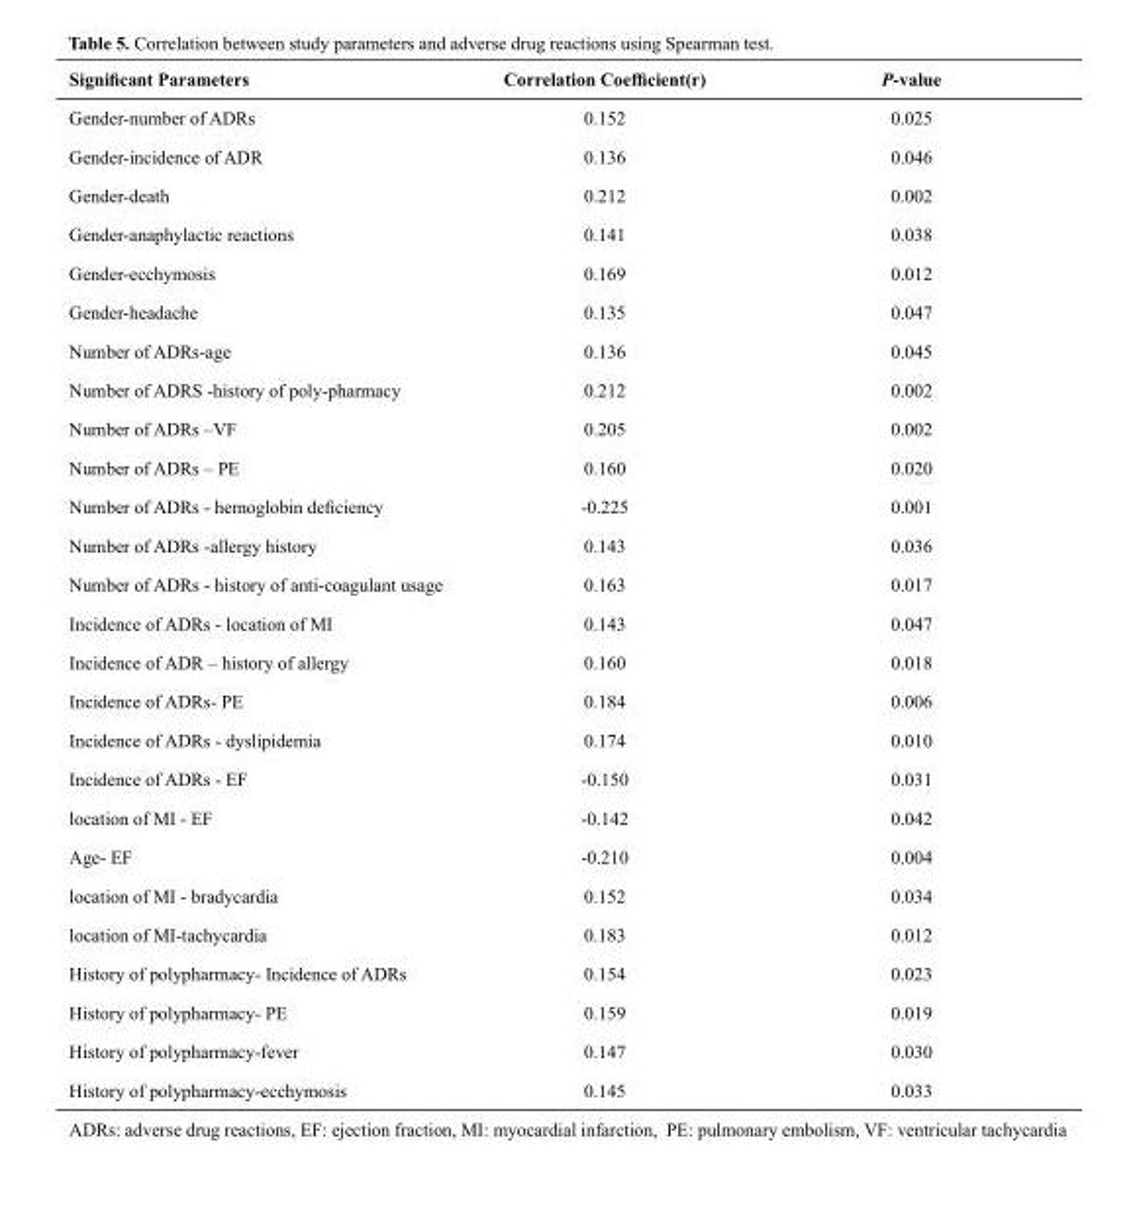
<table><thead><tr><td>Significant Parameters</td><td>Correlation Coefficient(r)</td><td>P-value</td></tr></thead><tbody><tr><td>Gender-number of ADRs</td><td>0.152</td><td>0.025</td></tr><tr><td>Gender-incidence of ADR</td><td>0.136</td><td>0.046</td></tr><tr><td>Gender-death</td><td>0.212</td><td>0.002</td></tr><tr><td>Gender-anaphylactic reactions</td><td>0.141</td><td>0.038</td></tr><tr><td>Gender-ecchymosis</td><td>0.169</td><td>0.012</td></tr><tr><td>Gender-headache</td><td>0.135</td><td>0.047</td></tr><tr><td>Number of ADRs-age</td><td>0.136</td><td>0.045</td></tr><tr><td>Number of ADRS -history of poly-pharmacy</td><td>0.212</td><td>0.002</td></tr><tr><td>Number of ADRs –VF</td><td>0.205</td><td>0.002</td></tr><tr><td>Number of ADRs – PE</td><td>0.160</td><td>0.020</td></tr><tr><td>Number of ADRs - hemoglobin deficiency</td><td>-0.225</td><td>0.001</td></tr><tr><td>Number of ADRs -allergy history</td><td>0.143</td><td>0.036</td></tr><tr><td>Number of ADRs - history of anti-coagulant usage</td><td>0.163</td><td>0.017</td></tr><tr><td>Incidence of ADRs - location of MI</td><td>0.143</td><td>0.047</td></tr><tr><td>Incidence of ADR – history of allergy</td><td>0.160</td><td>0.018</td></tr><tr><td>Incidence of ADRs- PE</td><td>0.184</td><td>0.006</td></tr><tr><td>Incidence of ADRs - dyslipidemia</td><td>0.174</td><td>0.010</td></tr><tr><td>Incidence of ADRs - EF</td><td>-0.150</td><td>0.031</td></tr><tr><td>location of MI - EF</td><td>-0.142</td><td>0.042</td></tr><tr><td>Age- EF</td><td>-0.210</td><td>0.004</td></tr><tr><td>location of MI - bradycardia</td><td>0.152</td><td>0.034</td></tr><tr><td>location of MI-tachycardia</td><td>0.183</td><td>0.012</td></tr><tr><td>History of polypharmacy- Incidence of ADRs</td><td>0.154</td><td>0.023</td></tr><tr><td>History of polypharmacy- PE</td><td>0.159</td><td>0.019</td></tr><tr><td>History of polypharmacy-fever</td><td>0.147</td><td>0.030</td></tr><tr><td>History of polypharmacy-ecchymosis</td><td>0.145</td><td>0.033</td></tr><tr><td colspan="3">ADRs: adverse drug reactions, EF: ejection fraction, MI: myocardial infarction, PE: pulmonary embolism, VF: ventricular tachycardia</td></tr></tbody></table>